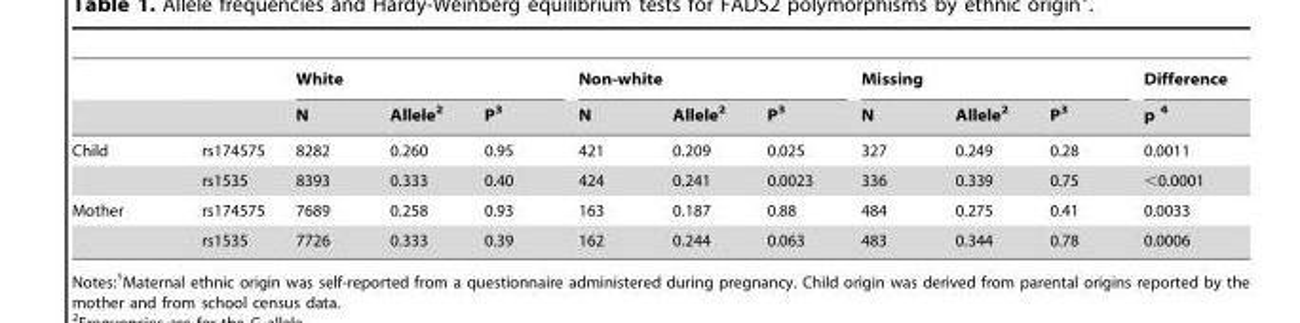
<table><thead><tr><td rowspan="2"></td><td rowspan="2"></td><td colspan="3">White</td><td colspan="3">Non-white</td><td colspan="3">Missing</td><td rowspan="2">Difference p 4</td></tr><tr><td>N</td><td>Allele<sup>2</sup></td><td>P<sup>3</sup></td><td>N</td><td>Allele<sup>2</sup></td><td>P<sup>3</sup></td><td>N</td><td>Allele<sup>2</sup></td><td>P<sup>3</sup></td></tr></thead><tbody><tr><td rowspan="2">Child</td><td>rs174575</td><td>8282</td><td>0.260</td><td>0.95</td><td>421</td><td>0.209</td><td>0.025</td><td>327</td><td>0.249</td><td>0.28</td><td>0.0011</td></tr><tr><td>rs1535</td><td>8393</td><td>0.333</td><td>0.40</td><td>424</td><td>0.241</td><td>0.0023</td><td>336</td><td>0.339</td><td>0.75</td><td>&lt;0.0001</td></tr><tr><td rowspan="2">Mother</td><td>rs174575</td><td>7689</td><td>0.258</td><td>0.93</td><td>163</td><td>0.187</td><td>0.88</td><td>484</td><td>0.275</td><td>0.41</td><td>0.0033</td></tr><tr><td>rs1535</td><td>7726</td><td>0.333</td><td>0.39</td><td>162</td><td>0.244</td><td>0.063</td><td>483</td><td>0.344</td><td>0.78</td><td>0.0006</td></tr></tbody></table>